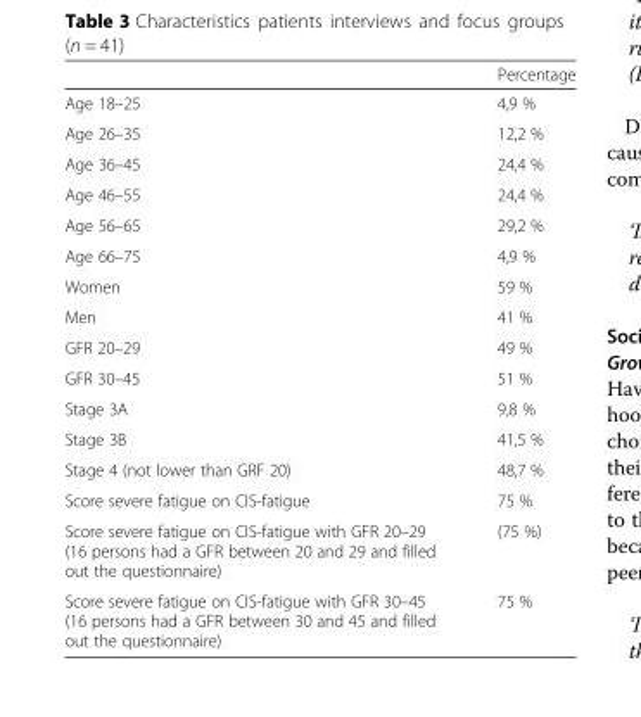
<table><thead><tr><td></td><td>Percentage</td></tr></thead><tbody><tr><td>Age 18–25</td><td>4,9 %</td></tr><tr><td>Age 26–35</td><td>12,2 %</td></tr><tr><td>Age 36–45</td><td>24,4 %</td></tr><tr><td>Age 46–55</td><td>24,4 %</td></tr><tr><td>Age 56–65</td><td>29,2 %</td></tr><tr><td>Age 66–75</td><td>4,9 %</td></tr><tr><td>Women</td><td>59 %</td></tr><tr><td>Men</td><td>41 %</td></tr><tr><td>GFR 20–29</td><td>49 %</td></tr><tr><td>GFR 30–45</td><td>51 %</td></tr><tr><td>Stage 3A</td><td>9,8 %</td></tr><tr><td>Stage 3B</td><td>41,5 %</td></tr><tr><td>Stage 4 (not lower than GRF 20)</td><td>48,7 %</td></tr><tr><td>Score severe fatigue on CIS-fatigue</td><td>75 %</td></tr><tr><td>Score severe fatigue on CIS-fatigue with GFR 20–29 (16 persons had a GFR between 20 and 29 and filled out the questionnaire)</td><td>(75 %)</td></tr><tr><td>Score severe fatigue on CIS-fatigue with GFR 30–45 (16 persons had a GFR between 30 and 45 and filled out the questionnaire)</td><td>75 %</td></tr></tbody></table>